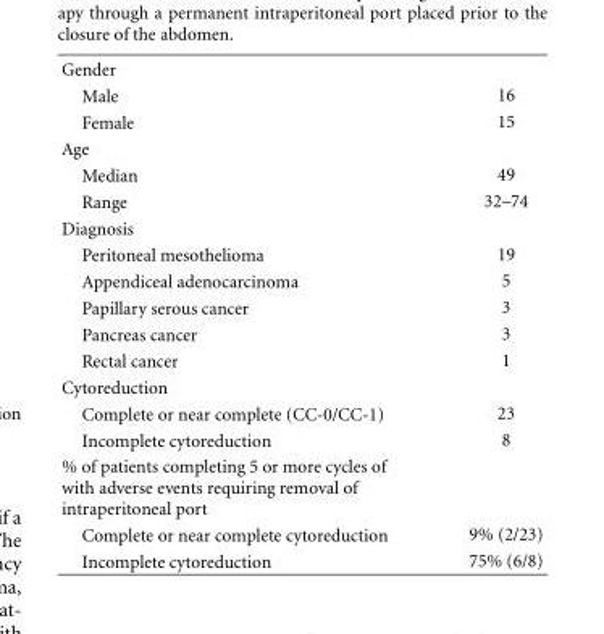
<table><tbody><tr><td colspan="2">Gender</td></tr><tr><td>Male</td><td>16</td></tr><tr><td>Female</td><td>15</td></tr><tr><td colspan="2">Age</td></tr><tr><td>Median</td><td>49</td></tr><tr><td>Range</td><td>32–74</td></tr><tr><td colspan="2">Diagnosis</td></tr><tr><td>Peritoneal mesothelioma</td><td>19</td></tr><tr><td>Appendiceal adenocarcinoma</td><td>5</td></tr><tr><td>Papillary serous cancer</td><td>3</td></tr><tr><td>Pancreas cancer</td><td>3</td></tr><tr><td>Rectal cancer</td><td>1</td></tr><tr><td colspan="2">Cytoreduction</td></tr><tr><td>Complete or near complete (CC-0/CC-1)</td><td>23</td></tr><tr><td>Incomplete cytoreduction</td><td>8</td></tr><tr><td colspan="2">% of patients completing 5 or more cycles of with adverse events requiring removal of intraperitoneal port</td></tr><tr><td>Complete or near complete cytoreduction</td><td>9% (2/23)</td></tr><tr><td>Incomplete cytoreduction</td><td>75% (6/8)</td></tr></tbody></table>